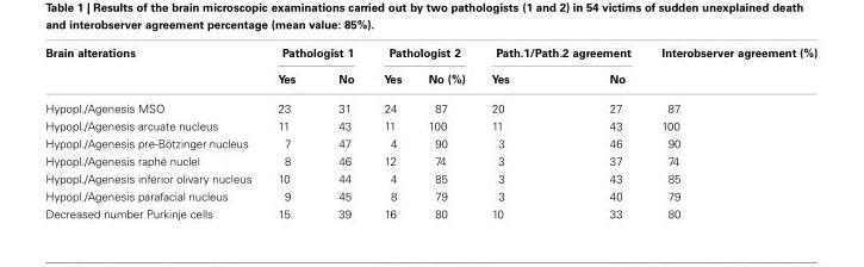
<table><thead><tr><td rowspan="2">Brain alterations</td><td colspan="2">Pathologist 1</td><td colspan="2">Pathologist 2</td><td colspan="2">Path.1/Path.2 agreement</td><td rowspan="2">Interobserver agreement (%)</td></tr><tr><td>Yes</td><td>No</td><td>Yes</td><td>No (%)</td><td>Yes</td><td>No</td></tr></thead><tbody><tr><td>Hypopl./Agenesis MSO</td><td>23</td><td>31</td><td>24</td><td>87</td><td>20</td><td>27</td><td>87</td></tr><tr><td>Hypopl./Agenesis arcuate nucleus</td><td>11</td><td>43</td><td>11</td><td>100</td><td>11</td><td>43</td><td>100</td></tr><tr><td>Hypopl./Agenesis pre-Bötzinger nucleus</td><td>7</td><td>47</td><td>4</td><td>90</td><td>3</td><td>46</td><td>90</td></tr><tr><td>Hypopl./Agenesis raphé nuclei</td><td>8</td><td>46</td><td>12</td><td>74</td><td>3</td><td>37</td><td>74</td></tr><tr><td>Hypopl./Agenesis inferior olivary nucleus</td><td>10</td><td>44</td><td>4</td><td>85</td><td>3</td><td>43</td><td>85</td></tr><tr><td>Hypopl./Agenesis parafacial nucleus</td><td>9</td><td>45</td><td>8</td><td>79</td><td>3</td><td>40</td><td>79</td></tr><tr><td>Decreased number Purkinje cells</td><td>15</td><td>39</td><td>16</td><td>80</td><td>10</td><td>33</td><td>80</td></tr></tbody></table>